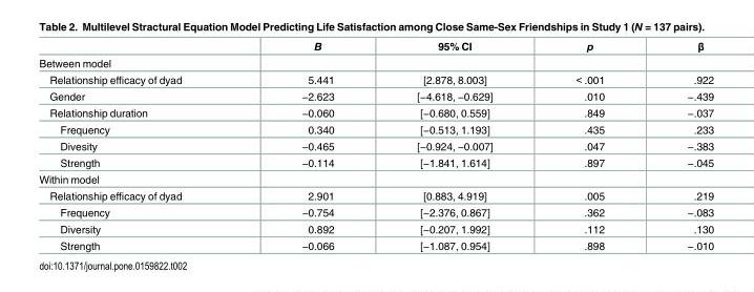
<table><thead><tr><td></td><td>B</td><td>95% CI</td><td>p</td><td>β</td></tr></thead><tbody><tr><td colspan="5">Between model</td></tr><tr><td>Relationship efficacy of dyad</td><td>5.441</td><td>[2.878, 8.003]</td><td>&lt; .001</td><td>.922</td></tr><tr><td>Gender</td><td>−2.623</td><td>[−4.618, −0.629]</td><td>.010</td><td>−.439</td></tr><tr><td>Relationship duration</td><td>−0.060</td><td>[−0.680, 0.559]</td><td>.849</td><td>−.037</td></tr><tr><td>Frequency</td><td>0.340</td><td>[−0.513, 1.193]</td><td>.435</td><td>.233</td></tr><tr><td>Divesity</td><td>−0.465</td><td>[−0.924, −0.007]</td><td>.047</td><td>−.383</td></tr><tr><td>Strength</td><td>−0.114</td><td>[−1.841, 1.614]</td><td>.897</td><td>−.045</td></tr><tr><td colspan="5">Within model</td></tr><tr><td>Relationship efficacy of dyad</td><td>2.901</td><td>[0.883, 4.919]</td><td>.005</td><td>.219</td></tr><tr><td>Frequency</td><td>−0.754</td><td>[−2.376, 0.867]</td><td>.362</td><td>−.083</td></tr><tr><td>Diversity</td><td>0.892</td><td>[−0.207, 1.992]</td><td>.112</td><td>.130</td></tr><tr><td>Strength</td><td>−0.066</td><td>[−1.087, 0.954]</td><td>.898</td><td>−.010</td></tr></tbody></table>